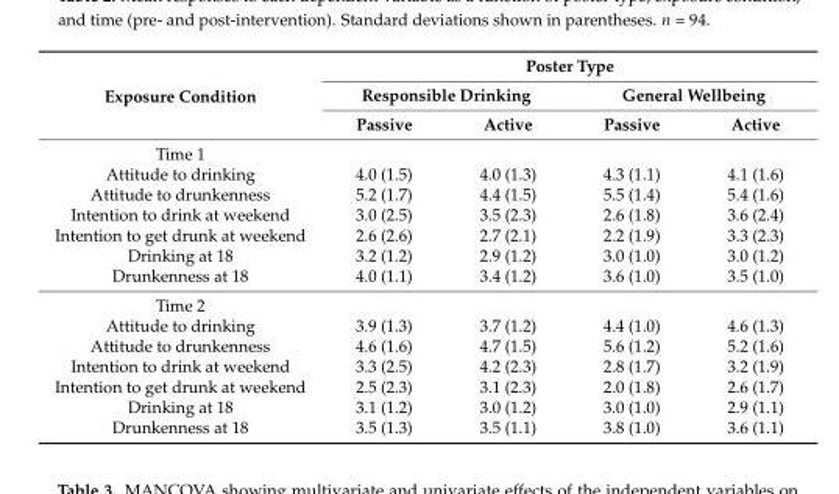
<table><thead><tr><td rowspan="3">Exposure Condition</td><td colspan="4">Poster Type</td></tr><tr><td colspan="2">Responsible Drinking</td><td colspan="2">General Wellbeing</td></tr><tr><td>Passive</td><td>Active</td><td>Passive</td><td>Active</td></tr></thead><tbody><tr><td colspan="5">Time 1</td></tr><tr><td>Attitude to drinking</td><td>4.0 (1.5)</td><td>4.0 (1.3)</td><td>4.3 (1.1)</td><td>4.1 (1.6)</td></tr><tr><td>Attitude to drunkenness</td><td>5.2 (1.7)</td><td>4.4 (1.5)</td><td>5.5 (1.4)</td><td>5.4 (1.6)</td></tr><tr><td>Intention to drink at weekend</td><td>3.0 (2.5)</td><td>3.5 (2.3)</td><td>2.6 (1.8)</td><td>3.6 (2.4)</td></tr><tr><td>Intention to get drunk at weekend</td><td>2.6 (2.6)</td><td>2.7 (2.1)</td><td>2.2 (1.9)</td><td>3.3 (2.3)</td></tr><tr><td>Drinking at 18</td><td>3.2 (1.2)</td><td>2.9 (1.2)</td><td>3.0 (1.0)</td><td>3.0 (1.2)</td></tr><tr><td>Drunkenness at 18</td><td>4.0 (1.1)</td><td>3.4 (1.2)</td><td>3.6 (1.0)</td><td>3.5 (1.0)</td></tr><tr><td colspan="5">Time 2</td></tr><tr><td>Attitude to drinking</td><td>3.9 (1.3)</td><td>3.7 (1.2)</td><td>4.4 (1.0)</td><td>4.6 (1.3)</td></tr><tr><td>Attitude to drunkenness</td><td>4.6 (1.6)</td><td>4.7 (1.5)</td><td>5.6 (1.2)</td><td>5.2 (1.6)</td></tr><tr><td>Intention to drink at weekend</td><td>3.3 (2.5)</td><td>4.2 (2.3)</td><td>2.8 (1.7)</td><td>3.2 (1.9)</td></tr><tr><td>Intention to get drunk at weekend</td><td>2.5 (2.3)</td><td>3.1 (2.3)</td><td>2.0 (1.8)</td><td>2.6 (1.7)</td></tr><tr><td>Drinking at 18</td><td>3.1 (1.2)</td><td>3.0 (1.2)</td><td>3.0 (1.0)</td><td>2.9 (1.1)</td></tr><tr><td>Drunkenness at 18</td><td>3.5 (1.3)</td><td>3.5 (1.1)</td><td>3.8 (1.0)</td><td>3.6 (1.1)</td></tr></tbody></table>